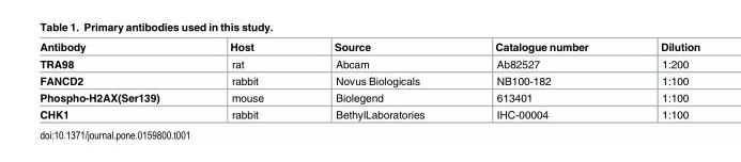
<table><thead><tr><td>Antibody</td><td>Host</td><td>Source</td><td>Catalogue number</td><td>Dilution</td></tr></thead><tbody><tr><td>TRA98</td><td>rat</td><td>Abcam</td><td>Ab82527</td><td>1:200</td></tr><tr><td>FANCD2</td><td>rabbit</td><td>Novus Biologicals</td><td>NB100-182</td><td>1:100</td></tr><tr><td>Phospho-H2AX(Ser139)</td><td>mouse</td><td>Biolegend</td><td>613401</td><td>1:100</td></tr><tr><td>CHK1</td><td>rabbit</td><td>BethylLaboratories</td><td>IHC-00004</td><td>1:100</td></tr></tbody></table>